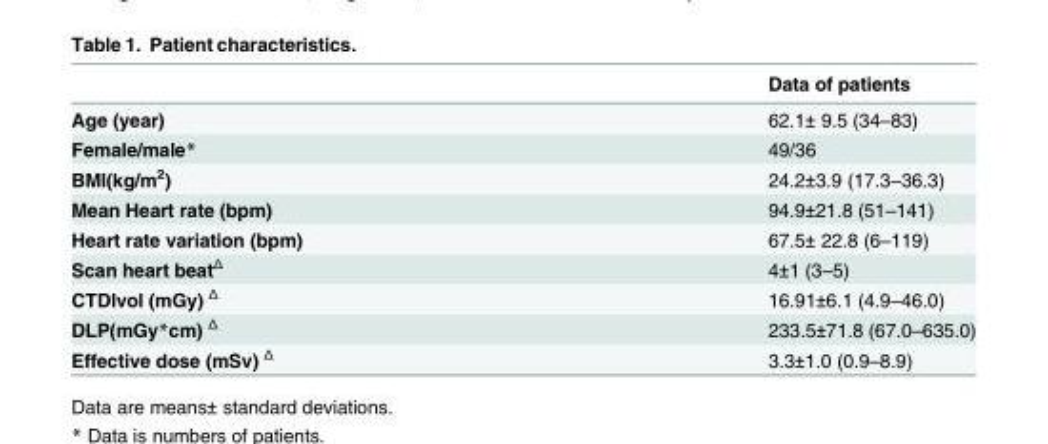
<table><thead><tr><td></td><td>Data of patients</td></tr></thead><tbody><tr><td>Age (year)</td><td>62.1± 9.5 (34–83)</td></tr><tr><td>Female/male*</td><td>49/36</td></tr><tr><td>BMI(kg/m<sup>2</sup>)</td><td>24.2±3.9 (17.3–36.3)</td></tr><tr><td>Mean Heart rate (bpm)</td><td>94.9±21.8 (51–141)</td></tr><tr><td>Heart rate variation (bpm)</td><td>67.5± 22.8 (6–119)</td></tr><tr><td>Scan heart beat<sup>Δ</sup></td><td>4±1 (3–5)</td></tr><tr><td>CTDIvol (mGy) <sup>Δ</sup></td><td>16.91±6.1 (4.9–46.0)</td></tr><tr><td>DLP(mGy*cm) <sup>Δ</sup></td><td>233.5±71.8 (67.0–635.0)</td></tr><tr><td>Effective dose (mSv) <sup>Δ</sup></td><td>3.3±1.0 (0.9–8.9)</td></tr></tbody></table>